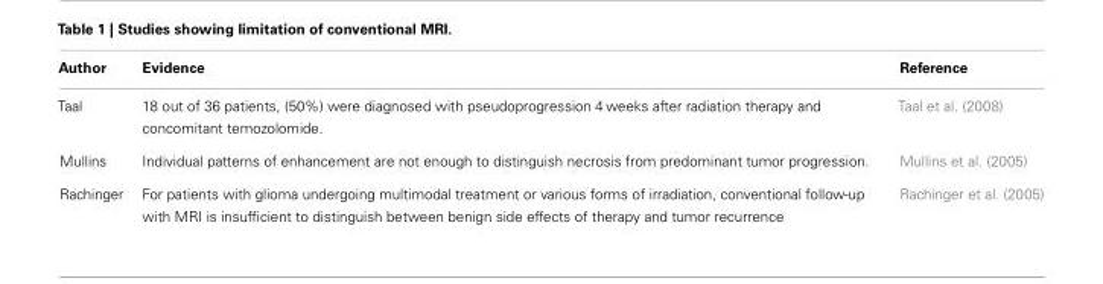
<table><thead><tr><td>Author</td><td>Evidence</td><td>Reference</td></tr></thead><tbody><tr><td>Taal</td><td>18 out of 36 patients, (50%) were diagnosed with pseudoprogression 4 weeks after radiation therapy and concomitant temozolomide.</td><td>Taal et al. (2008)</td></tr><tr><td>Mullins</td><td>Individual patterns of enhancement are not enough to distinguish necrosis from predominant tumor progression.</td><td>Mullins et al. (2005)</td></tr><tr><td>Rachinger</td><td>For patients with glioma undergoing multimodal treatment or various forms of irradiation, conventional follow-up with MRI is insufficient to distinguish between benign side effects of therapy and tumor recurrence</td><td>Rachinger et al. (2005)</td></tr></tbody></table>